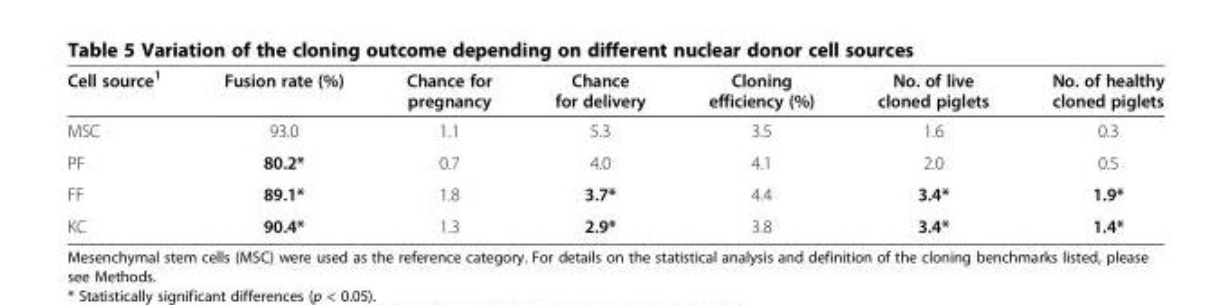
<table><thead><tr><td>Cell source<sup>1</sup></td><td>Fusion rate (%)</td><td>Chance for pregnancy</td><td>Chance for delivery</td><td>Cloning efficiency (%)</td><td>No. of live cloned piglets</td><td>No. of healthy cloned piglets</td></tr></thead><tbody><tr><td>MSC</td><td>93.0</td><td>1.1</td><td>5.3</td><td>3.5</td><td>1.6</td><td>0.3</td></tr><tr><td>PF</td><td>80.2*</td><td>0.7</td><td>4.0</td><td>4.1</td><td>2.0</td><td>0.5</td></tr><tr><td>FF</td><td>89.1*</td><td>1.8</td><td>3.7*</td><td>4.4</td><td>3.4*</td><td>1.9*</td></tr><tr><td>KC</td><td>90.4*</td><td>1.3</td><td>2.9*</td><td>3.8</td><td>3.4*</td><td>1.4*</td></tr></tbody></table>